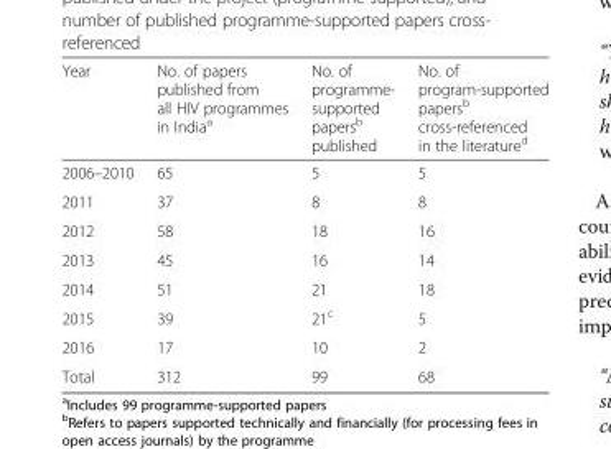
<table><thead><tr><td>Year</td><td>No. of papers published from all HIV programmes in India<sup>a</sup></td><td>No. of programme- supported papers<sup>b</sup> published</td><td>No. of program-supported papers<sup>b</sup> cross-referenced in the literature<sup>d</sup></td></tr></thead><tbody><tr><td>2006–2010</td><td>65</td><td>5</td><td>5</td></tr><tr><td>2011</td><td>37</td><td>8</td><td>8</td></tr><tr><td>2012</td><td>58</td><td>18</td><td>16</td></tr><tr><td>2013</td><td>45</td><td>16</td><td>14</td></tr><tr><td>2014</td><td>51</td><td>21</td><td>18</td></tr><tr><td>2015</td><td>39</td><td>21<sup>c</sup></td><td>5</td></tr><tr><td>2016</td><td>17</td><td>10</td><td>2</td></tr><tr><td>Total</td><td>312</td><td>99</td><td>68</td></tr></tbody></table>